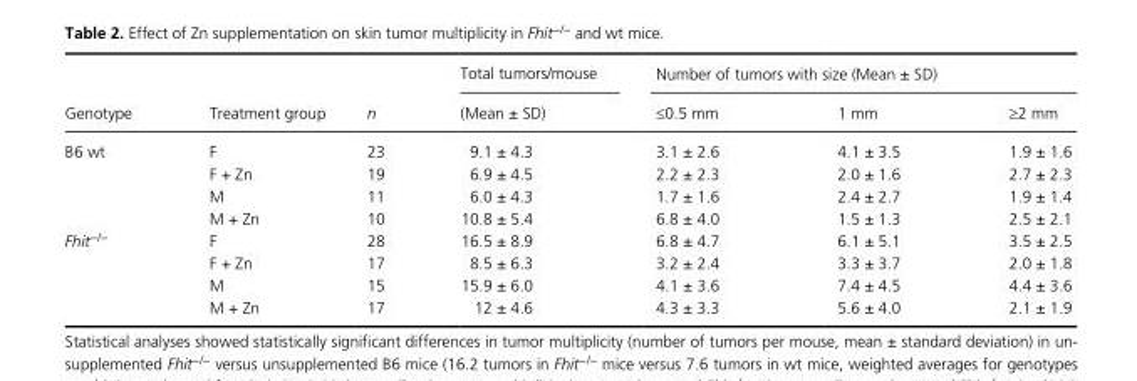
<table><thead><tr><td rowspan="2">Genotype</td><td rowspan="2">Treatment group</td><td rowspan="2">n</td><td rowspan="2">Total tumors/mouse (Mean ± SD)</td><td colspan="3">Number of tumors with size (Mean ± SD)</td></tr><tr><td>≤0.5 mm</td><td>1 mm</td><td>≥2 mm</td></tr></thead><tbody><tr><td rowspan="4">B6 wt</td><td>F</td><td>23</td><td>9.1 ± 4.3</td><td>3.1 ± 2.6</td><td>4.1 ± 3.5</td><td>1.9 ± 1.6</td></tr><tr><td>F + Zn</td><td>19</td><td>6.9 ± 4.5</td><td>2.2 ± 2.3</td><td>2.0 ± 1.6</td><td>2.7 ± 2.3</td></tr><tr><td>M</td><td>11</td><td>6.0 ± 4.3</td><td>1.7 ± 1.6</td><td>2.4 ± 2.7</td><td>1.9 ± 1.4</td></tr><tr><td>M + Zn</td><td>10</td><td>10.8 ± 5.4</td><td>6.8 ± 4.0</td><td>1.5 ± 1.3</td><td>2.5 ± 2.1</td></tr><tr><td rowspan="4">Fhit<sup>−/−</sup></td><td>F</td><td>28</td><td>16.5 ± 8.9</td><td>6.8 ± 4.7</td><td>6.1 ± 5.1</td><td>3.5 ± 2.5</td></tr><tr><td>F + Zn</td><td>17</td><td>8.5 ± 6.3</td><td>3.2 ± 2.4</td><td>3.3 ± 3.7</td><td>2.0 ± 1.8</td></tr><tr><td>M</td><td>15</td><td>15.9 ± 6.0</td><td>4.1 ± 3.6</td><td>7.4 ± 4.5</td><td>4.4 ± 3.6</td></tr><tr><td>M + Zn</td><td>17</td><td>12 ± 4.6</td><td>4.3 ± 3.3</td><td>5.6 ± 4.0</td><td>2.1 ± 1.9</td></tr></tbody></table>